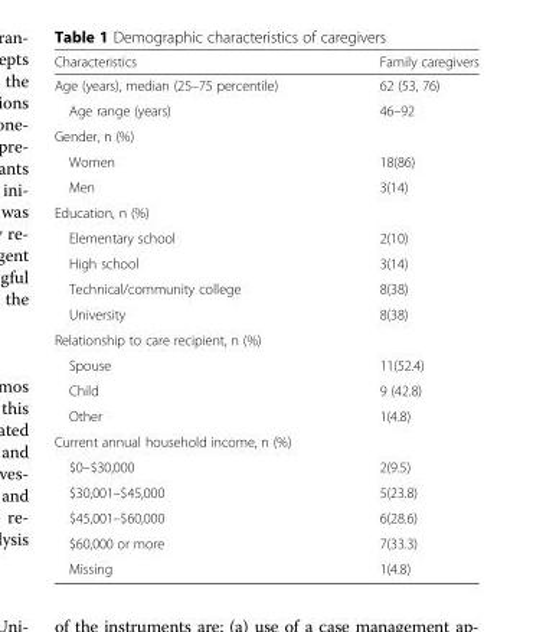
<table><thead><tr><td>Characteristics</td><td>Family caregivers</td></tr></thead><tbody><tr><td>Age (years), median (25–75 percentile)</td><td>62 (53, 76)</td></tr><tr><td>Age range (years)</td><td>46–92</td></tr><tr><td colspan="2">Gender, n (%)</td></tr><tr><td>Women</td><td>18(86)</td></tr><tr><td>Men</td><td>3(14)</td></tr><tr><td colspan="2">Education, n (%)</td></tr><tr><td>Elementary school</td><td>2(10)</td></tr><tr><td>High school</td><td>3(14)</td></tr><tr><td>Technical/community college</td><td>8(38)</td></tr><tr><td>University</td><td>8(38)</td></tr><tr><td colspan="2">Relationship to care recipient, n (%)</td></tr><tr><td>Spouse</td><td>11(52.4)</td></tr><tr><td>Child</td><td>9 (42.8)</td></tr><tr><td>Other</td><td>1(4.8)</td></tr><tr><td colspan="2">Current annual household income, n (%)</td></tr><tr><td>$0–$30,000</td><td>2(9.5)</td></tr><tr><td>$30,001–$45,000</td><td>5(23.8)</td></tr><tr><td>$45,001–$60,000</td><td>6(28.6)</td></tr><tr><td>$60,000 or more</td><td>7(33.3)</td></tr><tr><td>Missing</td><td>1(4.8)</td></tr></tbody></table>